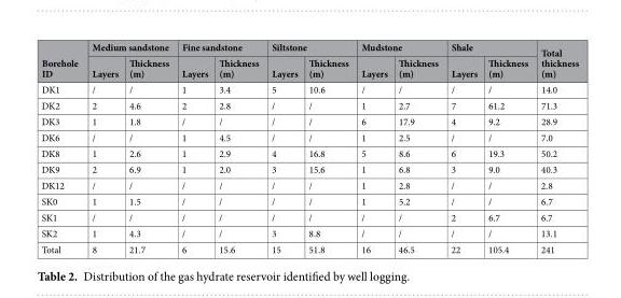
<table><thead><tr><td rowspan="2">Borehole ID</td><td colspan="2">Medium sandstone</td><td colspan="2">Fine sandstone</td><td colspan="2">Siltstone</td><td colspan="2">Mudstone</td><td colspan="2">Shale</td><td rowspan="2">Total thickness (m)</td></tr><tr><td>Layers</td><td>Thickness (m)</td><td>Layers</td><td>Thickness (m)</td><td>Layers</td><td>Thickness (m)</td><td>Layers</td><td>Thickness (m)</td><td>Layers</td><td>Thickness (m)</td></tr></thead><tbody><tr><td>DK1</td><td>/</td><td>/</td><td>1</td><td>3.4</td><td>5</td><td>10.6</td><td>/</td><td>/</td><td>/</td><td>/</td><td>14.0</td></tr><tr><td>DK2</td><td>2</td><td>4.6</td><td>2</td><td>2.8</td><td>/</td><td>/</td><td>1</td><td>2.7</td><td>7</td><td>61.2</td><td>71.3</td></tr><tr><td>DK3</td><td>1</td><td>1.8</td><td>/</td><td>/</td><td>/</td><td>/</td><td>6</td><td>17.9</td><td>4</td><td>9.2</td><td>28.9</td></tr><tr><td>DK6</td><td>/</td><td>/</td><td>1</td><td>4.5</td><td>/</td><td>/</td><td>1</td><td>2.5</td><td>/</td><td>/</td><td>7.0</td></tr><tr><td>DK8</td><td>1</td><td>2.6</td><td>1</td><td>2.9</td><td>4</td><td>16.8</td><td>5</td><td>8.6</td><td>6</td><td>19.3</td><td>50.2</td></tr><tr><td>DK9</td><td>2</td><td>6.9</td><td>1</td><td>2.0</td><td>3</td><td>15.6</td><td>1</td><td>6.8</td><td>3</td><td>9.0</td><td>40.3</td></tr><tr><td>DK12</td><td>/</td><td>/</td><td>/</td><td>/</td><td>/</td><td>/</td><td>1</td><td>2.8</td><td>/</td><td>/</td><td>2.8</td></tr><tr><td>SK0</td><td>1</td><td>1.5</td><td>/</td><td>/</td><td>/</td><td>/</td><td>1</td><td>5.2</td><td>/</td><td>/</td><td>6.7</td></tr><tr><td>SK1</td><td>/</td><td>/</td><td>/</td><td>/</td><td>/</td><td>/</td><td>/</td><td>/</td><td>2</td><td>6.7</td><td>6.7</td></tr><tr><td>SK2</td><td>1</td><td>4.3</td><td>/</td><td>/</td><td>3</td><td>8.8</td><td>/</td><td>/</td><td>/</td><td>/</td><td>13.1</td></tr><tr><td>Total</td><td>8</td><td>21.7</td><td>6</td><td>15.6</td><td>15</td><td>51.8</td><td>16</td><td>46.5</td><td>22</td><td>105.4</td><td>241</td></tr></tbody></table>